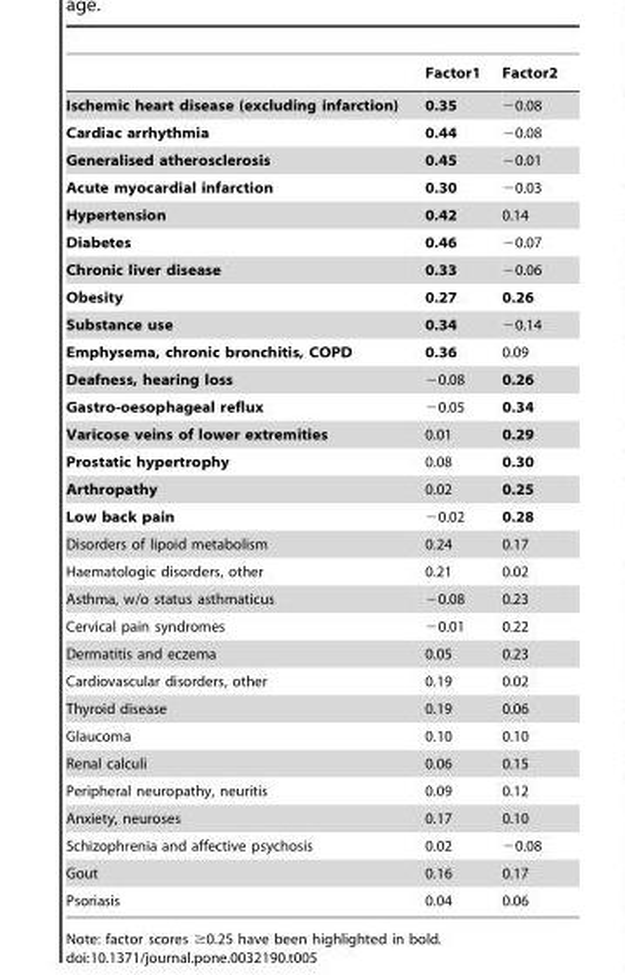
<table><thead><tr><td></td><td>Factor1</td><td>Factor2</td></tr></thead><tbody><tr><td>Ischemic heart disease (excluding infarction)</td><td>0.35</td><td>−0.08</td></tr><tr><td>Cardiac arrhythmia</td><td>0.44</td><td>−0.08</td></tr><tr><td>Generalised atherosclerosis</td><td>0.45</td><td>−0.01</td></tr><tr><td>Acute myocardial infarction</td><td>0.30</td><td>−0.03</td></tr><tr><td>Hypertension</td><td>0.42</td><td>0.14</td></tr><tr><td>Diabetes</td><td>0.46</td><td>−0.07</td></tr><tr><td>Chronic liver disease</td><td>0.33</td><td>−0.06</td></tr><tr><td>Obesity</td><td>0.27</td><td>0.26</td></tr><tr><td>Substance use</td><td>0.34</td><td>−0.14</td></tr><tr><td>Emphysema, chronic bronchitis, COPD</td><td>0.36</td><td>0.09</td></tr><tr><td>Deafness, hearing loss</td><td>−0.08</td><td>0.26</td></tr><tr><td>Gastro-oesophageal reflux</td><td>−0.05</td><td>0.34</td></tr><tr><td>Varicose veins of lower extremities</td><td>0.01</td><td>0.29</td></tr><tr><td>Prostatic hypertrophy</td><td>0.08</td><td>0.30</td></tr><tr><td>Arthropathy</td><td>0.02</td><td>0.25</td></tr><tr><td>Low back pain</td><td>−0.02</td><td>0.28</td></tr><tr><td>Disorders of lipoid metabolism</td><td>0.24</td><td>0.17</td></tr><tr><td>Haematologic disorders, other</td><td>0.21</td><td>0.02</td></tr><tr><td>Asthma, w/o status asthmaticus</td><td>−0.08</td><td>0.23</td></tr><tr><td>Cervical pain syndromes</td><td>−0.01</td><td>0.22</td></tr><tr><td>Dermatitis and eczema</td><td>0.05</td><td>0.23</td></tr><tr><td>Cardiovascular disorders, other</td><td>0.19</td><td>0.02</td></tr><tr><td>Thyroid disease</td><td>0.19</td><td>0.06</td></tr><tr><td>Glaucoma</td><td>0.10</td><td>0.10</td></tr><tr><td>Renal calculi</td><td>0.06</td><td>0.15</td></tr><tr><td>Peripheral neuropathy, neuritis</td><td>0.09</td><td>0.12</td></tr><tr><td>Anxiety, neuroses</td><td>0.17</td><td>0.10</td></tr><tr><td>Schizophrenia and affective psychosis</td><td>0.02</td><td>−0.08</td></tr><tr><td>Gout</td><td>0.16</td><td>0.17</td></tr><tr><td>Psoriasis</td><td>0.04</td><td>0.06</td></tr></tbody></table>